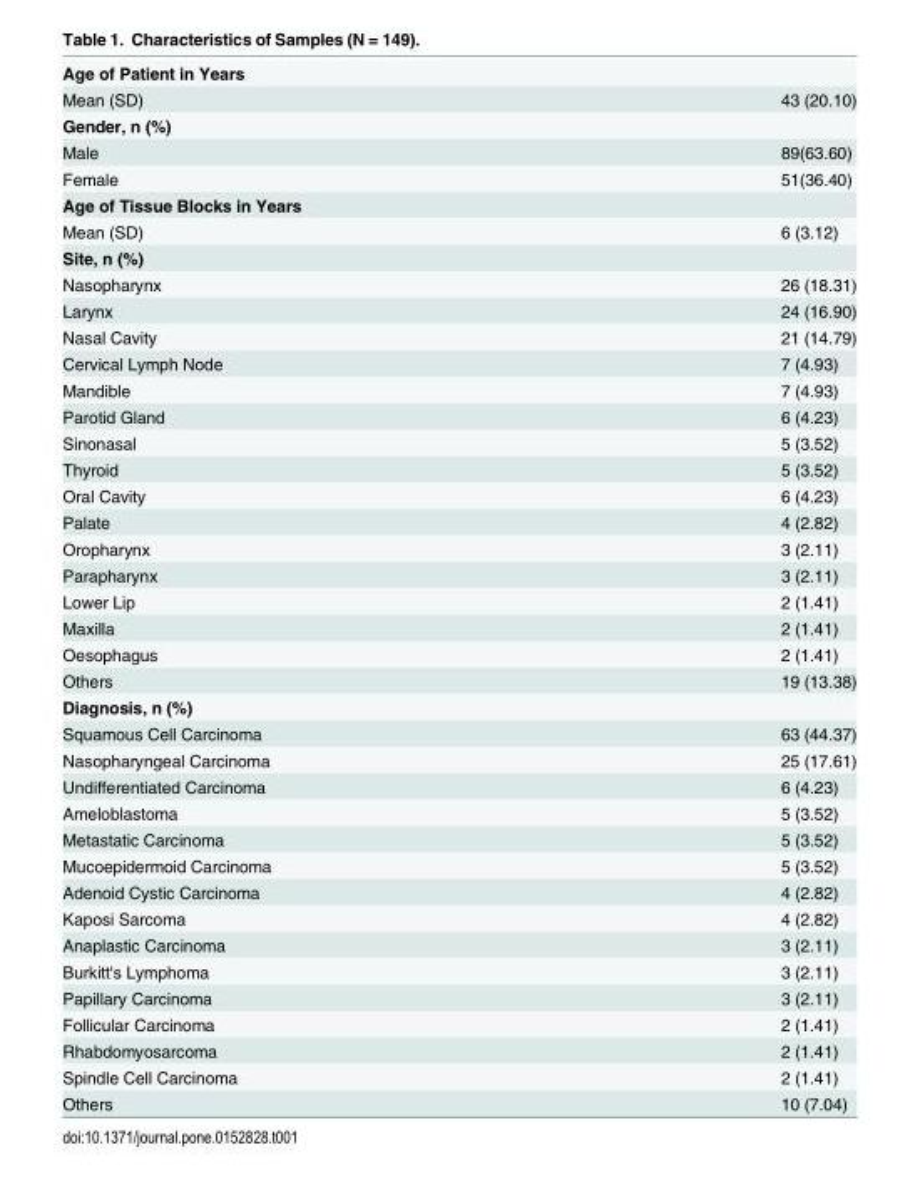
<table><tbody><tr><td colspan="2">Age of Patient in Years</td></tr><tr><td>Mean (SD)</td><td>43 (20.10)</td></tr><tr><td colspan="2">Gender, n (%)</td></tr><tr><td>Male</td><td>89(63.60)</td></tr><tr><td>Female</td><td>51(36.40)</td></tr><tr><td colspan="2">Age of Tissue Blocks in Years</td></tr><tr><td>Mean (SD)</td><td>6 (3.12)</td></tr><tr><td colspan="2">Site, n (%)</td></tr><tr><td>Nasopharynx</td><td>26 (18.31)</td></tr><tr><td>Larynx</td><td>24 (16.90)</td></tr><tr><td>Nasal Cavity</td><td>21 (14.79)</td></tr><tr><td>Cervical Lymph Node</td><td>7 (4.93)</td></tr><tr><td>Mandible</td><td>7 (4.93)</td></tr><tr><td>Parotid Gland</td><td>6 (4.23)</td></tr><tr><td>Sinonasal</td><td>5 (3.52)</td></tr><tr><td>Thyroid</td><td>5 (3.52)</td></tr><tr><td>Oral Cavity</td><td>6 (4.23)</td></tr><tr><td>Palate</td><td>4 (2.82)</td></tr><tr><td>Oropharynx</td><td>3 (2.11)</td></tr><tr><td>Parapharynx</td><td>3 (2.11)</td></tr><tr><td>Lower Lip</td><td>2 (1.41)</td></tr><tr><td>Maxilla</td><td>2 (1.41)</td></tr><tr><td>Oesophagus</td><td>2 (1.41)</td></tr><tr><td>Others</td><td>19 (13.38)</td></tr><tr><td colspan="2">Diagnosis, n (%)</td></tr><tr><td>Squamous Cell Carcinoma</td><td>63 (44.37)</td></tr><tr><td>Nasopharyngeal Carcinoma</td><td>25 (17.61)</td></tr><tr><td>Undifferentiated Carcinoma</td><td>6 (4.23)</td></tr><tr><td>Ameloblastoma</td><td>5 (3.52)</td></tr><tr><td>Metastatic Carcinoma</td><td>5 (3.52)</td></tr><tr><td>Mucoepidermoid Carcinoma</td><td>5 (3.52)</td></tr><tr><td>Adenoid Cystic Carcinoma</td><td>4 (2.82)</td></tr><tr><td>Kaposi Sarcoma</td><td>4 (2.82)</td></tr><tr><td>Anaplastic Carcinoma</td><td>3 (2.11)</td></tr><tr><td>Burkitt&#x27;s Lymphoma</td><td>3 (2.11)</td></tr><tr><td>Papillary Carcinoma</td><td>3 (2.11)</td></tr><tr><td>Follicular Carcinoma</td><td>2 (1.41)</td></tr><tr><td>Rhabdomyosarcoma</td><td>2 (1.41)</td></tr><tr><td>Spindle Cell Carcinoma</td><td>2 (1.41)</td></tr><tr><td>Others</td><td>10 (7.04)</td></tr></tbody></table>